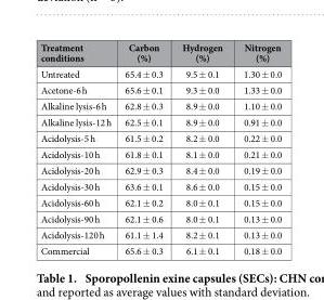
<table><thead><tr><td>Treatment conditions</td><td>Carbon (%)</td><td>Hydrogen (%)</td><td>Nitrogen (%)</td></tr></thead><tbody><tr><td>Untreated</td><td>65.4 ± 0.3</td><td>9.5 ± 0.1</td><td>1.30 ± 0.0</td></tr><tr><td>Acetone-6 h</td><td>65.6 ± 0.1</td><td>9.3 ± 0.0</td><td>1.33 ± 0.0</td></tr><tr><td>Alkaline lysis-6 h</td><td>62.8 ± 0.3</td><td>8.9 ± 0.0</td><td>1.10 ± 0.0</td></tr><tr><td>Alkaline lysis-12 h</td><td>62.5 ± 0.1</td><td>8.9 ± 0.0</td><td>0.91 ± 0.0</td></tr><tr><td>Acidolysis-5 h</td><td>61.5 ± 0.2</td><td>8.2 ± 0.0</td><td>0.22 ± 0.0</td></tr><tr><td>Acidolysis-10 h</td><td>61.8 ± 0.1</td><td>8.1 ± 0.0</td><td>0.21 ± 0.0</td></tr><tr><td>Acidolysis-20 h</td><td>62.9 ± 0.3</td><td>8.4 ± 0.0</td><td>0.19 ± 0.0</td></tr><tr><td>Acidolysis-30 h</td><td>63.6 ± 0.1</td><td>8.6 ± 0.0</td><td>0.15 ± 0.0</td></tr><tr><td>Acidolysis-60 h</td><td>62.1 ± 0.2</td><td>8.0 ± 0.1</td><td>0.15 ± 0.0</td></tr><tr><td>Acidolysis-90 h</td><td>62.1 ± 0.6</td><td>8.0 ± 0.1</td><td>0.13 ± 0.0</td></tr><tr><td>Acidolysis-120 h</td><td>61.1 ± 1.4</td><td>8.2 ± 0.1</td><td>0.13 ± 0.0</td></tr><tr><td>Commercial</td><td>65.6 ± 0.3</td><td>6.1 ± 0.1</td><td>0.18 ± 0.0</td></tr></tbody></table>